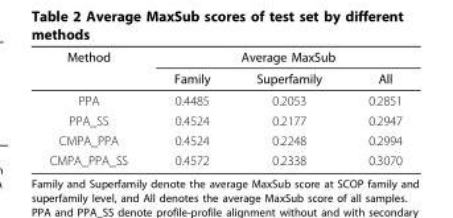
<table><thead><tr><td rowspan="2">Method</td><td colspan="3">Average MaxSub</td></tr><tr><td>Family</td><td>Superfamily</td><td>All</td></tr></thead><tbody><tr><td>PPA</td><td>0.4485</td><td>0.2053</td><td>0.2851</td></tr><tr><td>PPA_SS</td><td>0.4524</td><td>0.2177</td><td>0.2947</td></tr><tr><td>CMPA_PPA</td><td>0.4524</td><td>0.2248</td><td>0.2994</td></tr><tr><td>CMPA_PPA_SS</td><td>0.4572</td><td>0.2338</td><td>0.3070</td></tr></tbody></table>